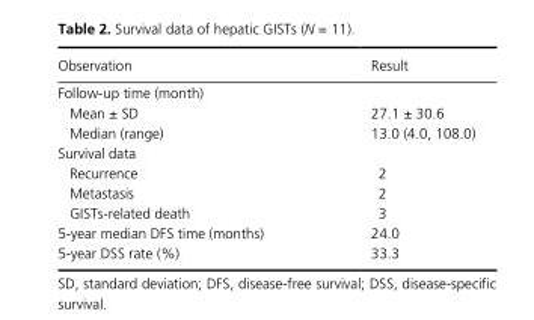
<table><thead><tr><td>Observation</td><td>Result</td></tr></thead><tbody><tr><td colspan="2">Follow- up time (month)</td></tr><tr><td>Mean ± SD</td><td>27.1 ± 30.6</td></tr><tr><td>Median (range)</td><td>13.0 (4.0, 108.0)</td></tr><tr><td colspan="2">Survival data</td></tr><tr><td>Recurrence</td><td>2</td></tr><tr><td>Metastasis</td><td>2</td></tr><tr><td>GISTs- related death</td><td>3</td></tr><tr><td>5- year median DFS time (months)</td><td>24.0</td></tr><tr><td>5- year DSS rate (%)</td><td>33.3</td></tr></tbody></table>